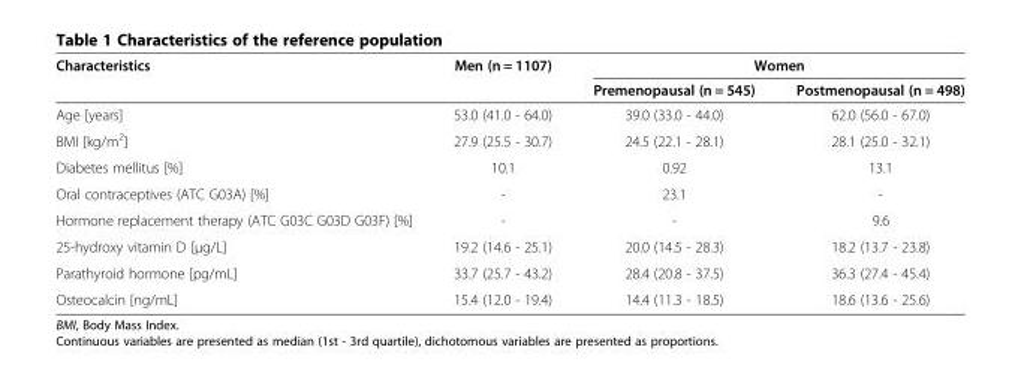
<table><thead><tr><td rowspan="2">Characteristics</td><td rowspan="2">Men (n = 1107)</td><td colspan="2">Women</td></tr><tr><td>Premenopausal (n = 545)</td><td>Postmenopausal (n = 498)</td></tr></thead><tbody><tr><td>Age [years]</td><td>53.0 (41.0 - 64.0)</td><td>39.0 (33.0 - 44.0)</td><td>62.0 (56.0 - 67.0)</td></tr><tr><td>BMI [kg/m<sup>2</sup>]</td><td>27.9 (25.5 - 30.7)</td><td>24.5 (22.1 - 28.1)</td><td>28.1 (25.0 - 32.1)</td></tr><tr><td>Diabetes mellitus [%]</td><td>10.1</td><td>0.92</td><td>13.1</td></tr><tr><td>Oral contraceptives (ATC G03A) [%]</td><td>-</td><td>23.1</td><td>-</td></tr><tr><td>Hormone replacement therapy (ATC G03C G03D G03F) [%]</td><td>-</td><td>-</td><td>9.6</td></tr><tr><td>25-hydroxy vitamin D [μg/L]</td><td>19.2 (14.6 - 25.1)</td><td>20.0 (14.5 - 28.3)</td><td>18.2 (13.7 - 23.8)</td></tr><tr><td>Parathyroid hormone [pg/mL]</td><td>33.7 (25.7 - 43.2)</td><td>28.4 (20.8 - 37.5)</td><td>36.3 (27.4 - 45.4)</td></tr><tr><td>Osteocalcin [ng/mL]</td><td>15.4 (12.0 - 19.4)</td><td>14.4 (11.3 - 18.5)</td><td>18.6 (13.6 - 25.6)</td></tr></tbody></table>